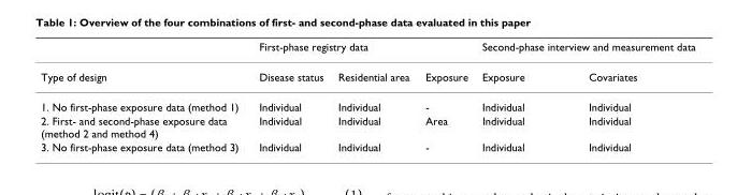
<table><thead><tr><td rowspan="2">Type of design</td><td colspan="3">First-phase registry data</td><td colspan="2">Second-phase interview and measurement data</td></tr><tr><td>Disease status</td><td>Residential area</td><td>Exposure</td><td>Exposure</td><td>Covariates</td></tr></thead><tbody><tr><td>1. No first-phase exposure data (method 1)</td><td>Individual</td><td>Individual</td><td>-</td><td>Individual</td><td>Individual</td></tr><tr><td>2. First- and second-phase exposure data (method 2 and method 4)</td><td>Individual</td><td>Individual</td><td>Area</td><td>Individual</td><td>Individual</td></tr><tr><td>3. No first-phase exposure data (method 3)</td><td>Individual</td><td>Individual</td><td>-</td><td>Individual</td><td>Individual</td></tr></tbody></table>